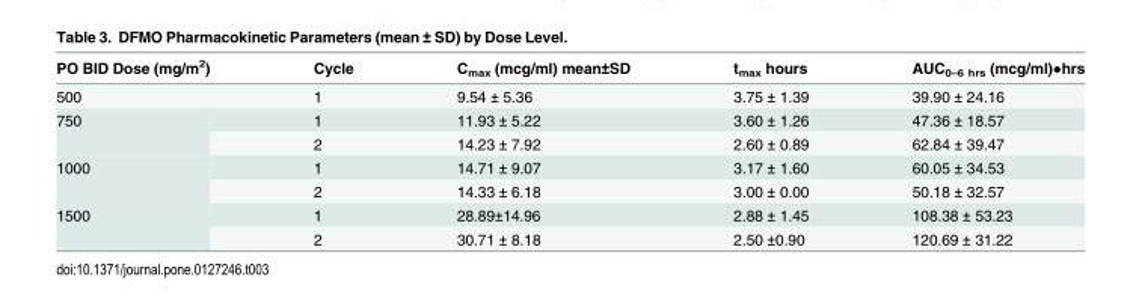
<table><thead><tr><td>PO BID Dose (mg/m<sup>2</sup>)</td><td>Cycle</td><td>C<sub>max</sub> (mcg/ml) mean±SD</td><td>t<sub>max</sub> hours</td><td>AUC<sub>0–6 hrs</sub> (mcg/ml)●hrs</td></tr></thead><tbody><tr><td>500</td><td>1</td><td>9.54 ± 5.36</td><td>3.75 ± 1.39</td><td>39.90 ± 24.16</td></tr><tr><td rowspan="2">750</td><td>1</td><td>11.93 ± 5.22</td><td>3.60 ± 1.26</td><td>47.36 ± 18.57</td></tr><tr><td>2</td><td>14.23 ± 7.92</td><td>2.60 ± 0.89</td><td>62.84 ± 39.47</td></tr><tr><td rowspan="2">1000</td><td>1</td><td>14.71 ± 9.07</td><td>3.17 ± 1.60</td><td>60.05 ± 34.53</td></tr><tr><td>2</td><td>14.33 ± 6.18</td><td>3.00 ± 0.00</td><td>50.18 ± 32.57</td></tr><tr><td rowspan="2">1500</td><td>1</td><td>28.89±14.96</td><td>2.88 ± 1.45</td><td>108.38 ± 53.23</td></tr><tr><td>2</td><td>30.71 ± 8.18</td><td>2.50 ±0.90</td><td>120.69 ± 31.22</td></tr></tbody></table>